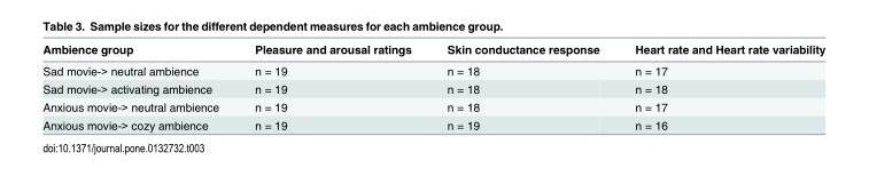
<table><thead><tr><td>Ambience group</td><td>Pleasure and arousal ratings</td><td>Skin conductance response</td><td>Heart rate and Heart rate variability</td></tr></thead><tbody><tr><td>Sad movie-&gt; neutral ambience</td><td>n = 19</td><td>n = 18</td><td>n = 17</td></tr><tr><td>Sad movie-&gt; activating ambience</td><td>n = 19</td><td>n = 18</td><td>n = 18</td></tr><tr><td>Anxious movie-&gt; neutral ambience</td><td>n = 19</td><td>n = 18</td><td>n = 17</td></tr><tr><td>Anxious movie-&gt; cozy ambience</td><td>n = 19</td><td>n = 19</td><td>n = 16</td></tr></tbody></table>